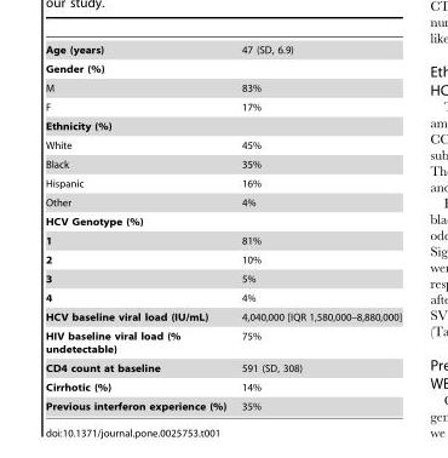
<table><tbody><tr><td>Age (years)</td><td>47 (SD, 6.9)</td></tr><tr><td colspan="2">Gender (%)</td></tr><tr><td>M</td><td>83%</td></tr><tr><td>F</td><td>17%</td></tr><tr><td colspan="2">Ethnicity (%)</td></tr><tr><td>White</td><td>45%</td></tr><tr><td>Black</td><td>35%</td></tr><tr><td>Hispanic</td><td>16%</td></tr><tr><td>Other</td><td>4%</td></tr><tr><td colspan="2">HCV Genotype (%)</td></tr><tr><td>1</td><td>81%</td></tr><tr><td>2</td><td>10%</td></tr><tr><td>3</td><td>5%</td></tr><tr><td>4</td><td>4%</td></tr><tr><td>HCV baseline viral load (IU/mL)</td><td>4,040,000 [IQR 1,580,000–8,880,000]</td></tr><tr><td>HIV baseline viral load (% undetectable)</td><td>75%</td></tr><tr><td>CD4 count at baseline</td><td>591 (SD, 308)</td></tr><tr><td>Cirrhotic (%)</td><td>14%</td></tr><tr><td>Previous interferon experience (%)</td><td>35%</td></tr></tbody></table>